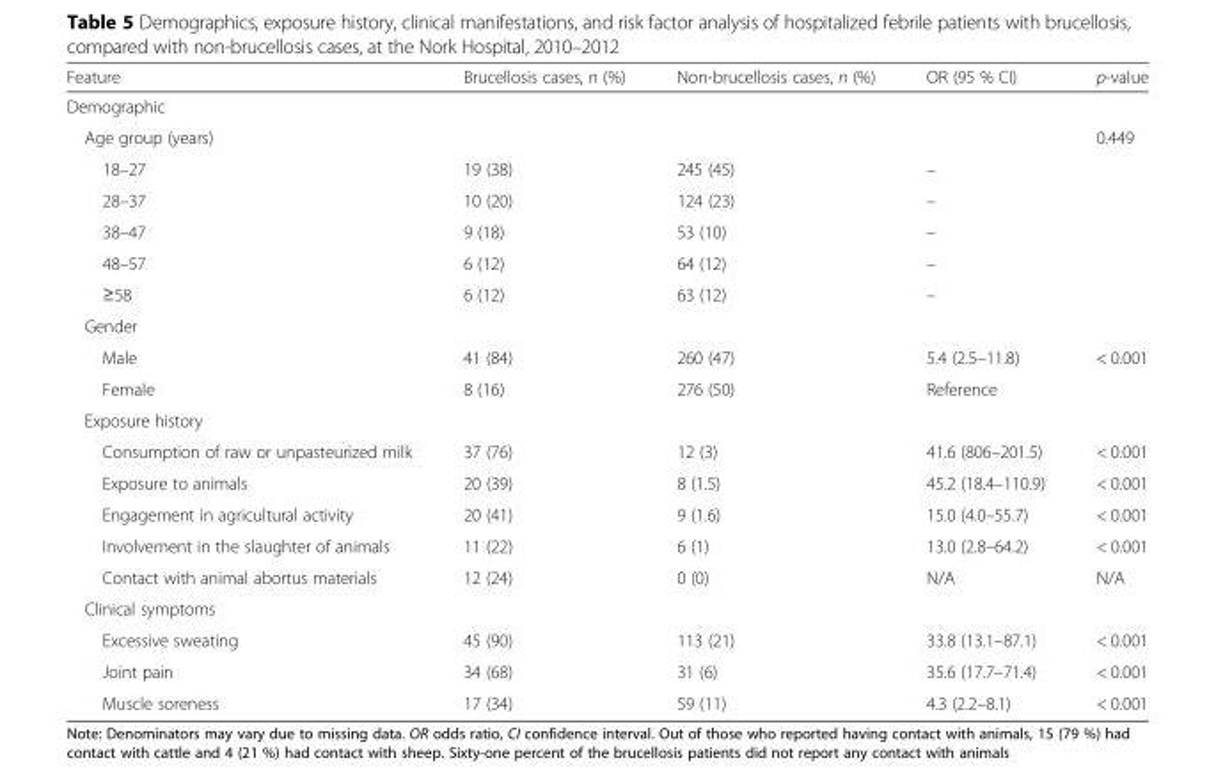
<table><thead><tr><td>Feature</td><td>Brucellosis cases, n (%)</td><td>Non-brucellosis cases, n (%)</td><td>OR (95 % CI)</td><td>p-value</td></tr></thead><tbody><tr><td colspan="5">Demographic</td></tr><tr><td>Age group (years)</td><td></td><td></td><td></td><td>0.449</td></tr><tr><td>18–27</td><td>19 (38)</td><td>245 (45)</td><td>–</td><td></td></tr><tr><td>28–37</td><td>10 (20)</td><td>124 (23)</td><td>–</td><td></td></tr><tr><td>38–47</td><td>9 (18)</td><td>53 (10)</td><td>–</td><td></td></tr><tr><td>48–57</td><td>6 (12)</td><td>64 (12)</td><td>–</td><td></td></tr><tr><td>≥58</td><td>6 (12)</td><td>63 (12)</td><td>–</td><td></td></tr><tr><td colspan="5">Gender</td></tr><tr><td>Male</td><td>41 (84)</td><td>260 (47)</td><td>5.4 (2.5–11.8)</td><td>&lt; 0.001</td></tr><tr><td>Female</td><td>8 (16)</td><td>276 (50)</td><td>Reference</td><td></td></tr><tr><td colspan="5">Exposure history</td></tr><tr><td>Consumption of raw or unpasteurized milk</td><td>37 (76)</td><td>12 (3)</td><td>41.6 (806–201.5)</td><td>&lt; 0.001</td></tr><tr><td>Exposure to animals</td><td>20 (39)</td><td>8 (1.5)</td><td>45.2 (18.4–110.9)</td><td>&lt; 0.001</td></tr><tr><td>Engagement in agricultural activity</td><td>20 (41)</td><td>9 (1.6)</td><td>15.0 (4.0–55.7)</td><td>&lt; 0.001</td></tr><tr><td>Involvement in the slaughter of animals</td><td>11 (22)</td><td>6 (1)</td><td>13.0 (2.8–64.2)</td><td>&lt; 0.001</td></tr><tr><td>Contact with animal abortus materials</td><td>12 (24)</td><td>0 (0)</td><td>N/A</td><td>N/A</td></tr><tr><td colspan="5">Clinical symptoms</td></tr><tr><td>Excessive sweating</td><td>45 (90)</td><td>113 (21)</td><td>33.8 (13.1–87.1)</td><td>&lt; 0.001</td></tr><tr><td>Joint pain</td><td>34 (68)</td><td>31 (6)</td><td>35.6 (17.7–71.4)</td><td>&lt; 0.001</td></tr><tr><td>Muscle soreness</td><td>17 (34)</td><td>59 (11)</td><td>4.3 (2.2–8.1)</td><td>&lt; 0.001</td></tr></tbody></table>